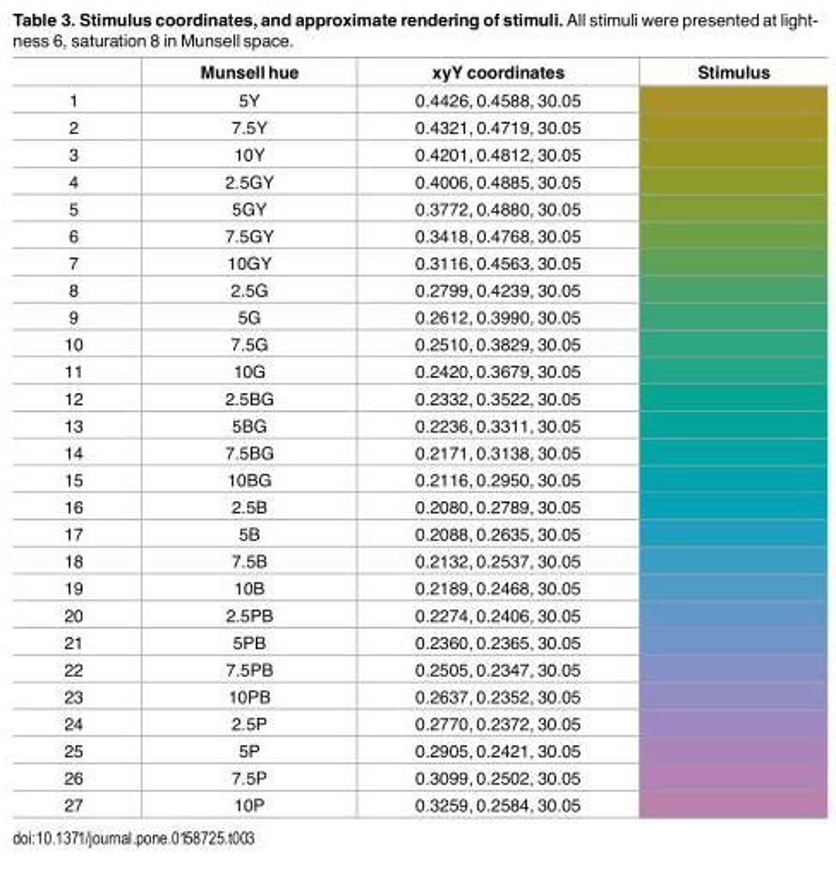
<table><thead><tr><td></td><td>Munsell hue</td><td>xyY coordinates</td><td>Stimulus</td></tr></thead><tbody><tr><td>1</td><td>5Y</td><td>0.4426, 0.4588, 30.05</td><td></td></tr><tr><td>2</td><td>7.5Y</td><td>0.4321, 0.4719, 30.05</td><td></td></tr><tr><td>3</td><td>10Y</td><td>0.4201, 0.4812, 30.05</td><td></td></tr><tr><td>4</td><td>2.5GY</td><td>0.4006, 0.4885, 30.05</td><td></td></tr><tr><td>5</td><td>5GY</td><td>0.3772, 0.4880, 30.05</td><td></td></tr><tr><td>6</td><td>7.5GY</td><td>0.3418, 0.4768, 30.05</td><td></td></tr><tr><td>7</td><td>10GY</td><td>0.3116, 0.4563, 30.05</td><td></td></tr><tr><td>8</td><td>2.5G</td><td>0.2799, 0.4239, 30.05</td><td></td></tr><tr><td>9</td><td>5G</td><td>0.2612, 0.3990, 30.05</td><td></td></tr><tr><td>10</td><td>7.5G</td><td>0.2510, 0.3829, 30.05</td><td></td></tr><tr><td>11</td><td>10G</td><td>0.2420, 0.3679, 30.05</td><td></td></tr><tr><td>12</td><td>2.5BG</td><td>0.2332, 0.3522, 30.05</td><td></td></tr><tr><td>13</td><td>5BG</td><td>0.2236, 0.3311, 30.05</td><td></td></tr><tr><td>14</td><td>7.5BG</td><td>0.2171, 0.3138, 30.05</td><td></td></tr><tr><td>15</td><td>10BG</td><td>0.2116, 0.2950, 30.05</td><td></td></tr><tr><td>16</td><td>2.5B</td><td>0.2080, 0.2789, 30.05</td><td></td></tr><tr><td>17</td><td>5B</td><td>0.2088, 0.2635, 30.05</td><td></td></tr><tr><td>18</td><td>7.5B</td><td>0.2132, 0.2537, 30.05</td><td></td></tr><tr><td>19</td><td>10B</td><td>0.2189, 0.2468, 30.05</td><td></td></tr><tr><td>20</td><td>2.5PB</td><td>0.2274, 0.2406, 30.05</td><td></td></tr><tr><td>21</td><td>5PB</td><td>0.2360, 0.2365, 30.05</td><td></td></tr><tr><td>22</td><td>7.5PB</td><td>0.2505, 0.2347, 30.05</td><td></td></tr><tr><td>23</td><td>10PB</td><td>0.2637, 0.2352, 30.05</td><td></td></tr><tr><td>24</td><td>2.5P</td><td>0.2770, 0.2372, 30.05</td><td></td></tr><tr><td>25</td><td>5P</td><td>0.2905, 0.2421, 30.05</td><td></td></tr><tr><td>26</td><td>7.5P</td><td>0.3099, 0.2502, 30.05</td><td></td></tr><tr><td>27</td><td>10P</td><td>0.3259, 0.2584, 30.05</td><td></td></tr></tbody></table>